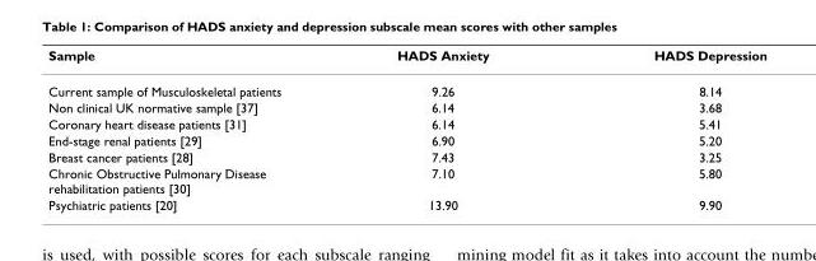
<table><thead><tr><td>Sample</td><td>HADS Anxiety</td><td>HADS Depression</td></tr></thead><tbody><tr><td>Current sample of Musculoskeletal patients</td><td>9.26</td><td>8.14</td></tr><tr><td>Non clinical UK normative sample [37]</td><td>6.14</td><td>3.68</td></tr><tr><td>Coronary heart disease patients [31]</td><td>6.14</td><td>5.41</td></tr><tr><td>End-stage renal patients [29]</td><td>6.90</td><td>5.20</td></tr><tr><td>Breast cancer patients [28]</td><td>7.43</td><td>3.25</td></tr><tr><td>Chronic Obstructive Pulmonary Disease rehabilitation patients [30]</td><td>7.10</td><td>5.80</td></tr><tr><td>Psychiatric patients [20]</td><td>13.90</td><td>9.90</td></tr></tbody></table>